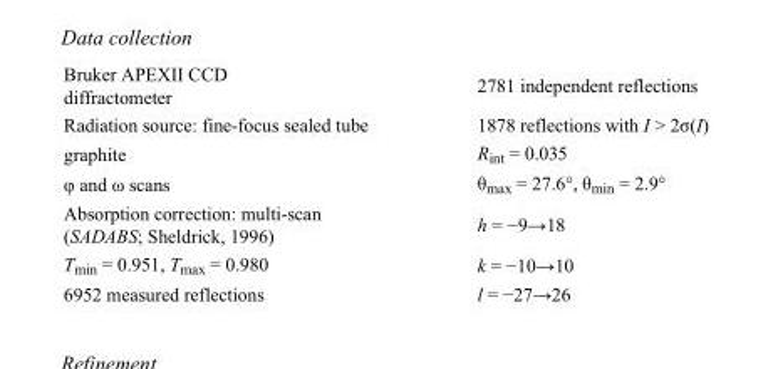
<table><tbody><tr><td>Bruker APEXII CCD diffractometer</td><td>2781 independent reflections</td></tr><tr><td>Radiation source: fine-focus sealed tube</td><td>1878 reflections with I &gt; 2σ(I)</td></tr><tr><td>graphite</td><td>R<sub>int</sub> = 0.035</td></tr><tr><td>φ and ω scans</td><td>θ<sub>max</sub> = 27.6°, θ<sub>min</sub> = 2.9°</td></tr><tr><td>Absorption correction: multi-scan (SADABS; Sheldrick, 1996)</td><td>h = −9→18</td></tr><tr><td>T<sub>min</sub> = 0.951, T<sub>max</sub> = 0.980</td><td>k = −10→10</td></tr><tr><td>6952 measured reflections</td><td>l = −27→26</td></tr></tbody></table>